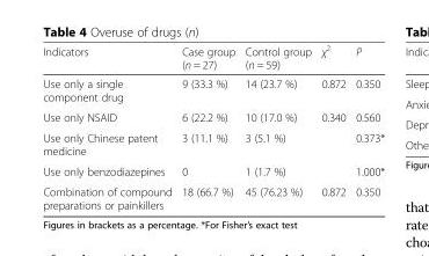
<table><thead><tr><td>Indicators</td><td>Case group (n = 27)</td><td>Control group (n = 59)</td><td>χ<sup>2</sup></td><td>P</td></tr></thead><tbody><tr><td>Use only a single component drug</td><td>9 (33.3 %)</td><td>14 (23.7 %)</td><td>0.872</td><td>0.350</td></tr><tr><td>Use only NSAID</td><td>6 (22.2 %)</td><td>10 (17.0 %)</td><td>0.340</td><td>0.560</td></tr><tr><td>Use only Chinese patent medicine</td><td>3 (11.1 %)</td><td>3 (5.1 %)</td><td></td><td>0.373*</td></tr><tr><td>Use only benzodiazepines</td><td>0</td><td>1 (1.7 %)</td><td></td><td>1.000*</td></tr><tr><td>Combination of compound preparations or painkillers</td><td>18 (66.7 %)</td><td>45 (76.23 %)</td><td>0.872</td><td>0.350</td></tr></tbody></table>